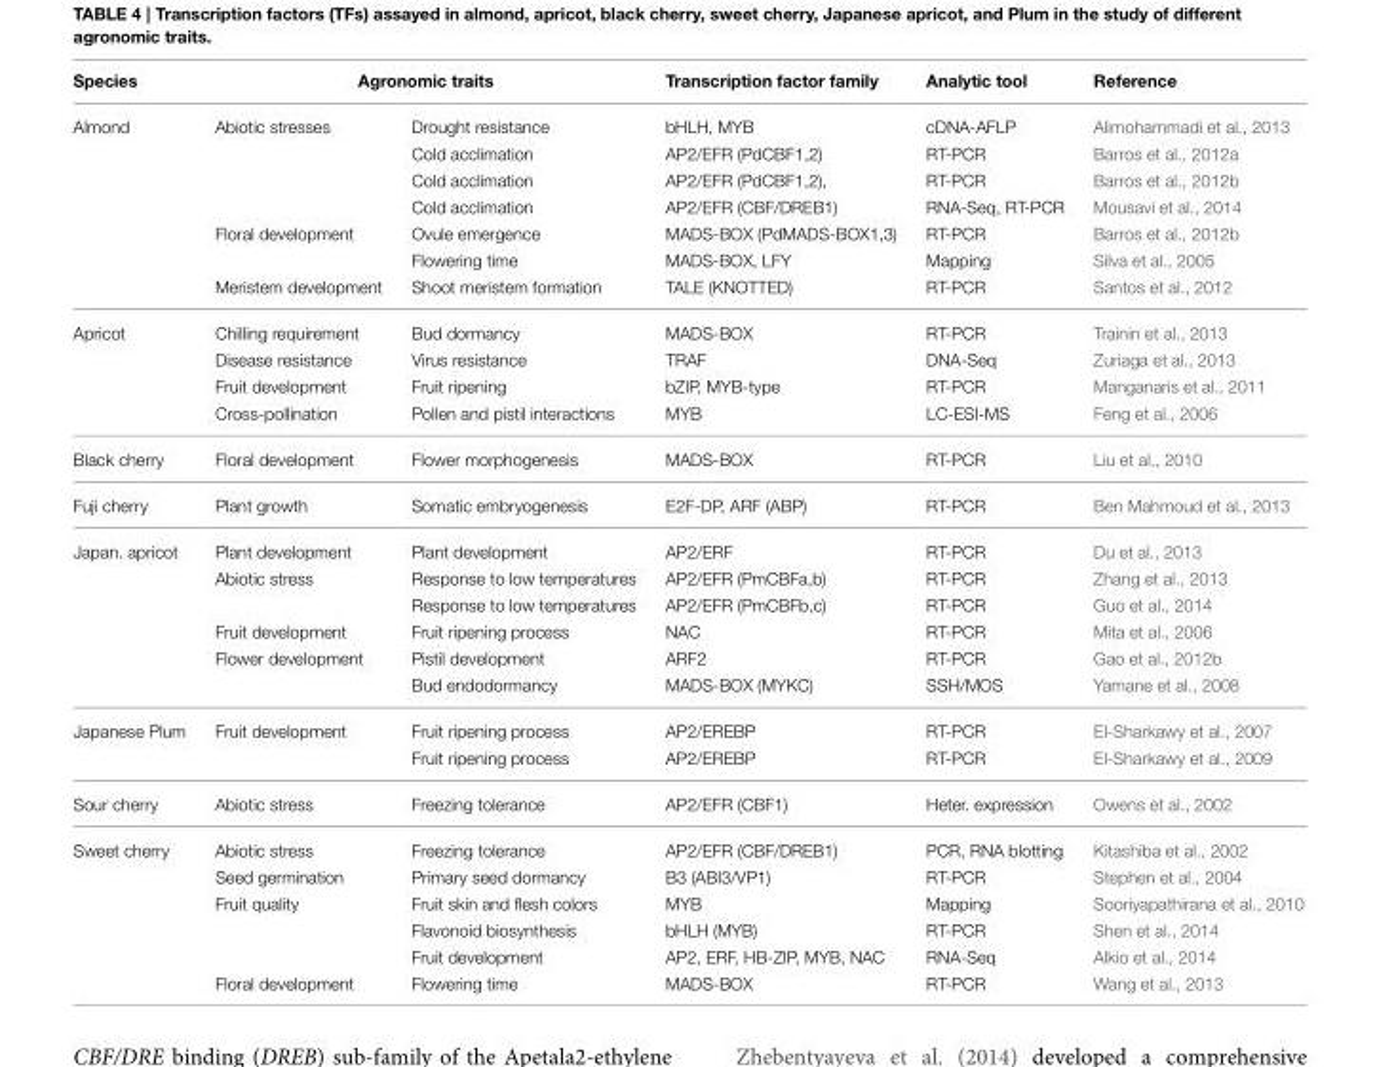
<table><thead><tr><td rowspan="2">Species Almond</td><td colspan="2">Agronomic traits</td><td rowspan="2">Transcription factor family bHLH, MYB</td><td rowspan="2">Analytic tool cDNA-AFLP</td><td rowspan="2">Reference Alimohammadi et al., 2013</td></tr><tr><td>Abiotic stresses</td><td>Drought resistance</td></tr></thead><tbody><tr><td></td><td></td><td>Cold acclimation</td><td>AP2/EFR (PdCBF1,2)</td><td>RT-PCR</td><td>Barros et al., 2012a</td></tr><tr><td></td><td></td><td>Cold acclimation</td><td>AP2/EFR (PdCBF1,2),</td><td>RT-PCR</td><td>Barros et al., 2012b</td></tr><tr><td></td><td></td><td>Cold acclimation</td><td>AP2/EFR (CBF/DREB1)</td><td>RNA-Seq, RT-PCR</td><td>Mousavi et al., 2014</td></tr><tr><td></td><td>Floral development</td><td>Ovule emergence</td><td>MADS-BOX (PdMADS-BOX1,3)</td><td>RT-PCR</td><td>Barros et al., 2012b</td></tr><tr><td></td><td></td><td>Flowering time</td><td>MADS-BOX, LFY</td><td>Mapping</td><td>Silva et al., 2005</td></tr><tr><td></td><td>Meristem development</td><td>Shoot meristem formation</td><td>TALE (KNOTTED)</td><td>RT-PCR</td><td>Santos et al., 2012</td></tr><tr><td rowspan="4">Apricot</td><td>Chilling requirement</td><td>Bud dormancy</td><td>MADS-BOX</td><td>RT-PCR</td><td>Trainin et al., 2013</td></tr><tr><td>Disease resistance</td><td>Virus resistance</td><td>TRAF</td><td>DNA-Seq</td><td>Zuriaga et al., 2013</td></tr><tr><td>Fruit development</td><td>Fruit ripening</td><td>bZIP, MYB-type</td><td>RT-PCR</td><td>Manganaris et al., 2011</td></tr><tr><td>Cross-pollination</td><td>Pollen and pistil interactions</td><td>MYB</td><td>LC-ESI-MS</td><td>Feng et al., 2006</td></tr><tr><td>Black cherry</td><td>Floral development</td><td>Flower morphogenesis</td><td>MADS-BOX</td><td>RT-PCR</td><td>Liu et al., 2010</td></tr><tr><td>Fuji cherry</td><td>Plant growth</td><td>Somatic embryogenesis</td><td>E2F-DP, ARF (ABP)</td><td>RT-PCR</td><td>Ben Mahmoud et al., 2013</td></tr><tr><td rowspan="6">Japan. apricot</td><td>Plant development</td><td>Plant development</td><td>AP2/ERF</td><td>RT-PCR</td><td>Du et al., 2013</td></tr><tr><td>Abiotic stress</td><td>Response to low temperatures</td><td>AP2/EFR (PmCBFa,b)</td><td>RT-PCR</td><td>Zhang et al., 2013</td></tr><tr><td></td><td>Response to low temperatures</td><td>AP2/EFR (PmCBFb,c)</td><td>RT-PCR</td><td>Guo et al., 2014</td></tr><tr><td>Fruit development</td><td>Fruit ripening process</td><td>NAC</td><td>RT-PCR</td><td>Mita et al., 2006</td></tr><tr><td>Flower development</td><td>Pistil development</td><td>ARF2</td><td>RT-PCR</td><td>Gao et al., 2012b</td></tr><tr><td></td><td>Bud endodormancy</td><td>MADS-BOX (MYKC)</td><td>SSH/MOS</td><td>Yamane et al., 2008</td></tr><tr><td rowspan="2">Japanese Plum</td><td>Fruit development</td><td>Fruit ripening process</td><td>AP2/EREBP</td><td>RT-PCR</td><td>El-Sharkawy et al., 2007</td></tr><tr><td></td><td>Fruit ripening process</td><td>AP2/EREBP</td><td>RT-PCR</td><td>El-Sharkawy et al., 2009</td></tr><tr><td>Sour cherry</td><td>Abiotic stress</td><td>Freezing tolerance</td><td>AP2/EFR (CBF1)</td><td>Heter. expression</td><td>Owens et al., 2002</td></tr><tr><td rowspan="6">Sweet cherry</td><td>Abiotic stress</td><td>Freezing tolerance</td><td>AP2/EFR (CBF/DREB1)</td><td>PCR, RNA blotting</td><td>Kitashiba et al., 2002</td></tr><tr><td>Seed germination</td><td>Primary seed dormancy</td><td>B3 (ABI3/VP1)</td><td>RT-PCR</td><td>Stephen et al., 2004</td></tr><tr><td>Fruit quality</td><td>Fruit skin and flesh colors</td><td>MYB</td><td>Mapping</td><td>Sooriyapathirana et al., 2010</td></tr><tr><td></td><td>Flavonoid biosynthesis</td><td>bHLH (MYB)</td><td>RT-PCR</td><td>Shen et al., 2014</td></tr><tr><td></td><td>Fruit development</td><td>AP2, ERF, HB-ZIP, MYB, NAC</td><td>RNA-Seq</td><td>Alkio et al., 2014</td></tr><tr><td>Floral development</td><td>Flowering time</td><td>MADS-BOX</td><td>RT-PCR</td><td>Wang et al., 2013</td></tr></tbody></table>